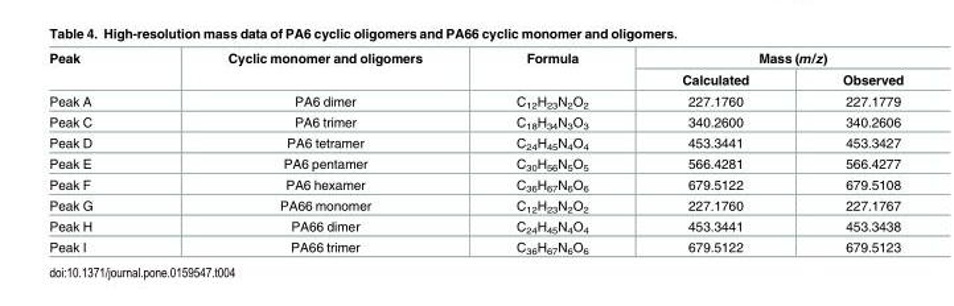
<table><thead><tr><td rowspan="2">Peak</td><td rowspan="2">Cyclic monomer and oligomers</td><td rowspan="2">Formula</td><td colspan="2">Mass (m/z)</td></tr><tr><td>Calculated</td><td>Observed</td></tr></thead><tbody><tr><td>Peak A</td><td>PA6 dimer</td><td>C<sub>12</sub>H<sub>23</sub>N<sub>2</sub>O<sub>2</sub></td><td>227.1760</td><td>227.1779</td></tr><tr><td>Peak C</td><td>PA6 trimer</td><td>C<sub>18</sub>H<sub>34</sub>N<sub>3</sub>O<sub>3</sub></td><td>340.2600</td><td>340.2606</td></tr><tr><td>Peak D</td><td>PA6 tetramer</td><td>C<sub>24</sub>H<sub>45</sub>N<sub>4</sub>O<sub>4</sub></td><td>453.3441</td><td>453.3427</td></tr><tr><td>Peak E</td><td>PA6 pentamer</td><td>C<sub>30</sub>H<sub>56</sub>N<sub>5</sub>O<sub>5</sub></td><td>566.4281</td><td>566.4277</td></tr><tr><td>Peak F</td><td>PA6 hexamer</td><td>C<sub>36</sub>H<sub>67</sub>N<sub>6</sub>O<sub>6</sub></td><td>679.5122</td><td>679.5108</td></tr><tr><td>Peak G</td><td>PA66 monomer</td><td>C<sub>12</sub>H<sub>23</sub>N<sub>2</sub>O<sub>2</sub></td><td>227.1760</td><td>227.1767</td></tr><tr><td>Peak H</td><td>PA66 dimer</td><td>C<sub>24</sub>H<sub>45</sub>N<sub>4</sub>O<sub>4</sub></td><td>453.3441</td><td>453.3438</td></tr><tr><td>Peak I</td><td>PA66 trimer</td><td>C<sub>36</sub>H<sub>67</sub>N<sub>6</sub>O<sub>6</sub></td><td>679.5122</td><td>679.5123</td></tr></tbody></table>